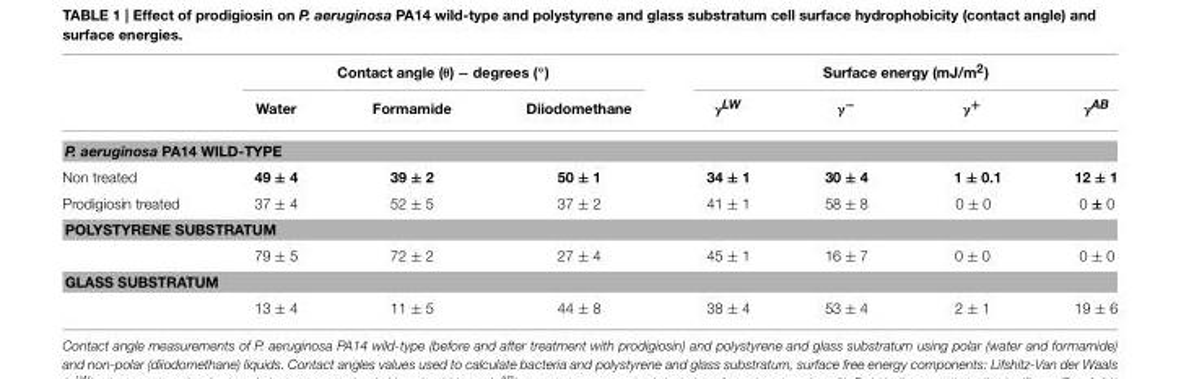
<table><thead><tr><td rowspan="2"></td><td colspan="3">Contact angle (θ) − degrees (◦)</td><td colspan="4">Surface energy (mJ/m<sup>2</sup>)</td></tr><tr><td>Water</td><td>Formamide</td><td>Diiodomethane</td><td>γLW</td><td>γ<sup>−</sup></td><td>γ<sup>+</sup></td><td>γAB</td></tr></thead><tbody><tr><td colspan="8">P. aeruginosa PA14 WILD-TYPE</td></tr><tr><td>Non treated</td><td>49 ± 4</td><td>39 ± 2</td><td>50 ± 1</td><td>34 ± 1</td><td>30 ± 4</td><td>1 ± 0.1</td><td>12 ± 1</td></tr><tr><td>Prodigiosin treated</td><td>37 ± 4</td><td>52 ± 5</td><td>37 ± 2</td><td>41 ± 1</td><td>58 ± 8</td><td>0 ± 0</td><td>0 ± 0</td></tr><tr><td colspan="8">POLYSTYRENE SUBSTRATUM</td></tr><tr><td></td><td>79 ± 5</td><td>72 ± 2</td><td>27 ± 4</td><td>45 ± 1</td><td>16 ± 7</td><td>0 ± 0</td><td>0 ± 0</td></tr><tr><td colspan="8">GLASS SUBSTRATUM</td></tr><tr><td></td><td>13 ± 4</td><td>11 ± 5</td><td>44 ± 8</td><td>38 ± 4</td><td>53 ± 4</td><td>2 ± 1</td><td>19 ± 6</td></tr></tbody></table>